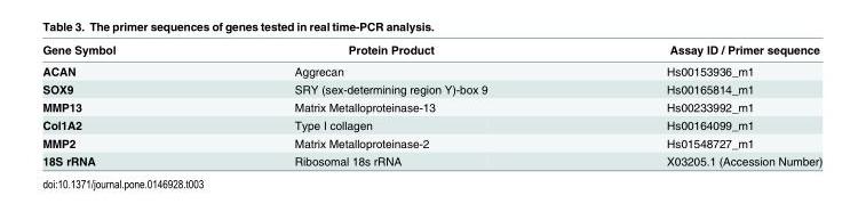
<table><thead><tr><td>Gene Symbol</td><td>Protein Product</td><td>Assay ID / Primer sequence</td></tr></thead><tbody><tr><td>ACAN</td><td>Aggrecan</td><td>Hs00153936_m1</td></tr><tr><td>SOX9</td><td>SRY (sex-determining region Y)-box 9</td><td>Hs00165814_m1</td></tr><tr><td>MMP13</td><td>Matrix Metalloproteinase-13</td><td>Hs00233992_m1</td></tr><tr><td>Col1A2</td><td>Type I collagen</td><td>Hs00164099_m1</td></tr><tr><td>MMP2</td><td>Matrix Metalloproteinase-2</td><td>Hs01548727_m1</td></tr><tr><td>18S rRNA</td><td>Ribosomal 18s rRNA</td><td>X03205.1 (Accession Number)</td></tr></tbody></table>